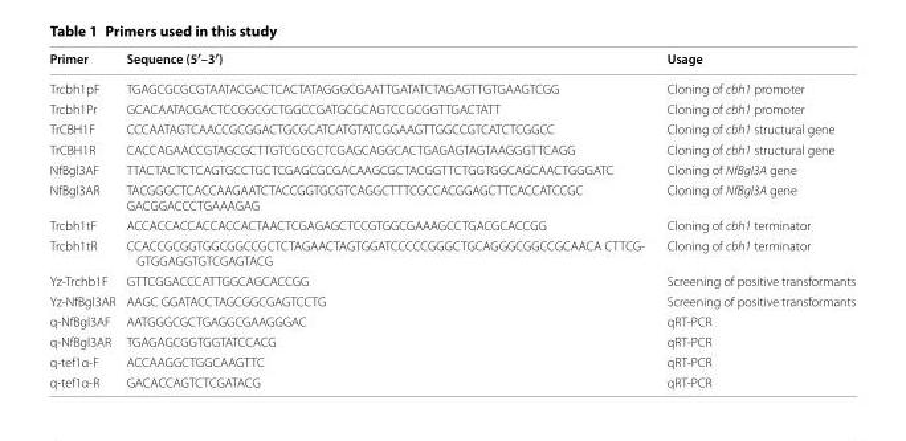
<table><thead><tr><td>Primer</td><td>Sequence (5′–3′)</td><td>Usage</td></tr></thead><tbody><tr><td>Trcbh1pF</td><td>TGAGCGCGCGTAATACGACTCACTATAGGGCGAATTGATATCTAGAGTTGTGAAGTCGG</td><td>Cloning of cbh1 promoter</td></tr><tr><td>Trcbh1Pr</td><td>GCACAATACGACTCCGGCGCTGGCCGATGCGCAGTCCGCGGTTGACTATT</td><td>Cloning of cbh1 promoter</td></tr><tr><td>TrCBH1F</td><td>CCCAATAGTCAACCGCGGACTGCGCATCATGTATCGGAAGTTGGCCGTCATCTCGGCC</td><td>Cloning of cbh1 structural gene</td></tr><tr><td>TrCBH1R</td><td>CACCAGAACCGTAGCGCTTGTCGCGCTCGAGCAGGCACTGAGAGTAGTAAGGGTTCAGG</td><td>Cloning of cbh1 structural gene</td></tr><tr><td>NfBgl3AF</td><td>TTACTACTCTCAGTGCCTGCTCGAGCGCGACAAGCGCTACGGTTCTGGTGGCAGCAACTGGGATC</td><td>Cloning of NfBgl3A gene</td></tr><tr><td>NfBgl3AR</td><td>TACGGGCTCACCAAGAATCTACCGGTGCGTCAGGCTTTCGCCACGGAGCTTCACCATCCGC GACGGACCCTGAAAGAG</td><td>Cloning of NfBgl3A gene</td></tr><tr><td>Trcbh1tF</td><td>ACCACCACCACCACCACTAACTCGAGAGCTCCGTGGCGAAAGCCTGACGCACCGG</td><td>Cloning of cbh1 terminator</td></tr><tr><td>Trcbh1tR</td><td>CCACCGCGGTGGCGGCCGCTCTAGAACTAGTGGATCCCCCGGGCTGCAGGGCGGCCGCAACA CTTCG- GTGGAGGTGTCGAGTACG</td><td>Cloning of cbh1 terminator</td></tr><tr><td>Yz-Trchb1F</td><td>GTTCGGACCCATTGGCAGCACCGG</td><td>Screening of positive transformants</td></tr><tr><td>Yz-NfBgl3AR</td><td>AAGC GGATACCTAGCGGCGAGTCCTG</td><td>Screening of positive transformants</td></tr><tr><td>q-NfBgl3AF</td><td>AATGGGCGCTGAGGCGAAGGGAC</td><td>qRT-PCR</td></tr><tr><td>q-NfBgl3AR</td><td>TGAGAGCGGTGGTATCCACG</td><td>qRT-PCR</td></tr><tr><td>q-tef1α-F</td><td>ACCAAGGCTGGCAAGTTC</td><td>qRT-PCR</td></tr><tr><td>q-tef1α-R</td><td>GACACCAGTCTCGATACG</td><td>qRT-PCR</td></tr></tbody></table>